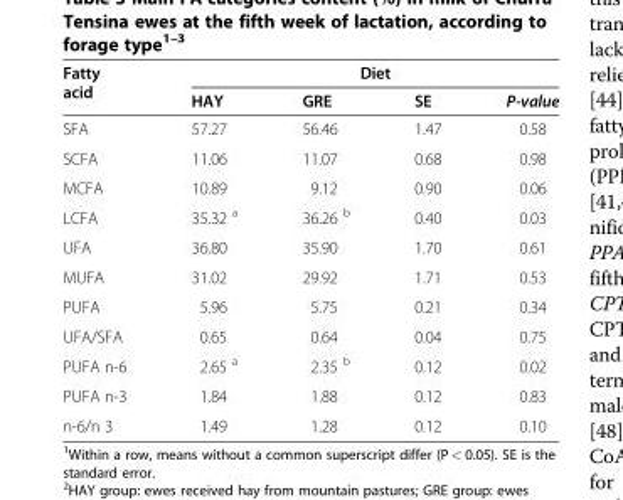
<table><thead><tr><td rowspan="2">Fatty acid</td><td colspan="4">Diet</td></tr><tr><td>HAY</td><td>GRE</td><td>SE</td><td>P-value</td></tr></thead><tbody><tr><td>SFA</td><td>57.27</td><td>56.46</td><td>1.47</td><td>0.58</td></tr><tr><td>SCFA</td><td>11.06</td><td>11.07</td><td>0.68</td><td>0.98</td></tr><tr><td>MCFA</td><td>10.89</td><td>9.12</td><td>0.90</td><td>0.06</td></tr><tr><td>LCFA</td><td>35.32 <sup>a</sup></td><td>36.26 <sup>b</sup></td><td>0.40</td><td>0.03</td></tr><tr><td>UFA</td><td>36.80</td><td>35.90</td><td>1.70</td><td>0.61</td></tr><tr><td>MUFA</td><td>31.02</td><td>29.92</td><td>1.71</td><td>0.53</td></tr><tr><td>PUFA</td><td>5.96</td><td>5.75</td><td>0.21</td><td>0.34</td></tr><tr><td>UFA/SFA</td><td>0.65</td><td>0.64</td><td>0.04</td><td>0.75</td></tr><tr><td>PUFA n-6</td><td>2.65 <sup>a</sup></td><td>2.35 <sup>b</sup></td><td>0.12</td><td>0.02</td></tr><tr><td>PUFA n-3</td><td>1.84</td><td>1.88</td><td>0.12</td><td>0.83</td></tr><tr><td>n-6/n 3</td><td>1.49</td><td>1.28</td><td>0.12</td><td>0.10</td></tr></tbody></table>